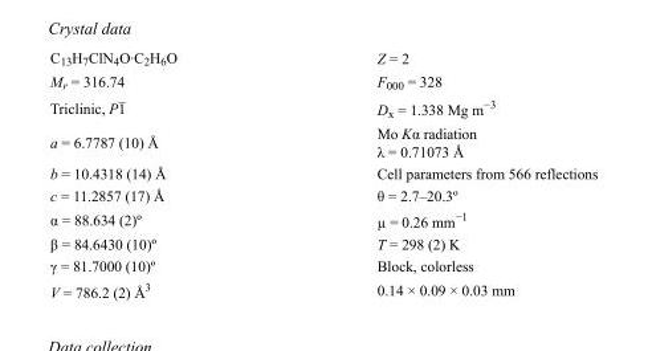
<table><tbody><tr><td>C<sub>13</sub>H<sub>7</sub>ClN<sub>4</sub>O·C<sub>2</sub>H<sub>6</sub>O</td><td>Z = 2</td></tr><tr><td>M<sub>r</sub> = 316.74</td><td>F<sub>000</sub> = 328</td></tr><tr><td>Triclinic, P1</td><td>D<sub>x</sub> = 1.338 Mg m<sup>−3</sup></td></tr><tr><td>a = 6.7787 (10) Å</td><td>Mo Kα radiation λ = 0.71073 Å</td></tr><tr><td>b = 10.4318 (14) Å</td><td>Cell parameters from 566 reflections</td></tr><tr><td>c = 11.2857 (17) Å</td><td>θ = 2.7–20.3º</td></tr><tr><td>α = 88.634 (2)º</td><td>µ = 0.26 mm<sup>−1</sup></td></tr><tr><td>β = 84.6430 (10)º</td><td>T = 298 (2) K</td></tr><tr><td>γ = 81.7000 (10)º</td><td>Block, colorless</td></tr><tr><td>V = 786.2 (2) Å<sup>3</sup></td><td>0.14 × 0.09 × 0.03 mm</td></tr></tbody></table>